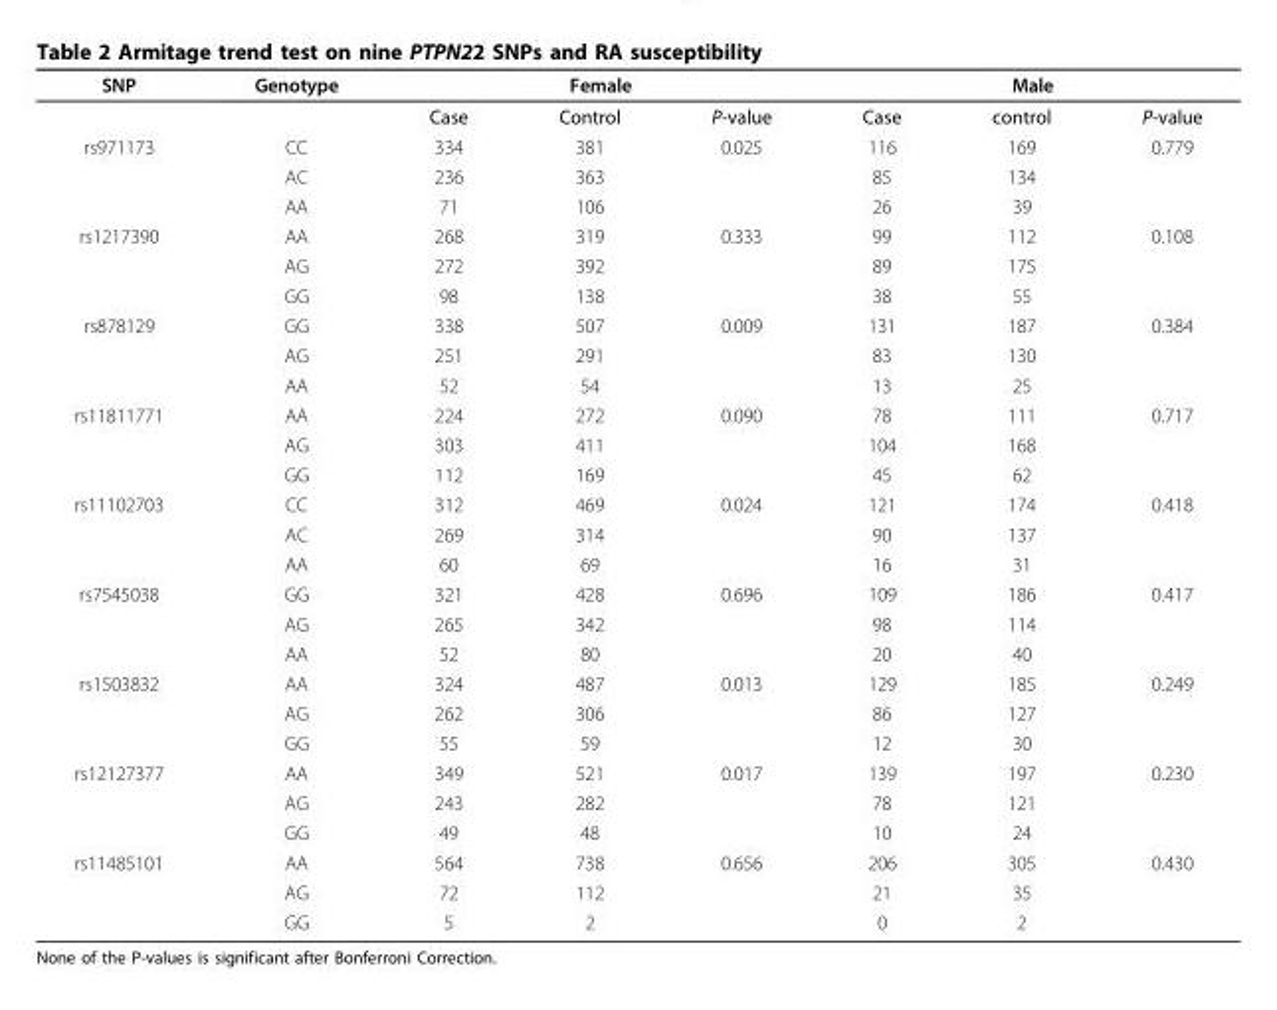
<table><thead><tr><td rowspan="2">SNP</td><td rowspan="2">Genotype</td><td colspan="3">Female</td><td colspan="3">Male</td></tr><tr><td>Case</td><td>Control</td><td>P-value</td><td>Case</td><td>control</td><td>P-value</td></tr></thead><tbody><tr><td rowspan="3">rs971173</td><td>CC</td><td>334</td><td>381</td><td>0.025</td><td>116</td><td>169</td><td>0.779</td></tr><tr><td>AC</td><td>236</td><td>363</td><td></td><td>85</td><td>134</td><td></td></tr><tr><td>AA</td><td>71</td><td>106</td><td></td><td>26</td><td>39</td><td></td></tr><tr><td rowspan="3">rs1217390</td><td>AA</td><td>268</td><td>319</td><td>0.333</td><td>99</td><td>112</td><td>0.108</td></tr><tr><td>AG</td><td>272</td><td>392</td><td></td><td>89</td><td>175</td><td></td></tr><tr><td>GG</td><td>98</td><td>138</td><td></td><td>38</td><td>55</td><td></td></tr><tr><td rowspan="3">rs878129</td><td>GG</td><td>338</td><td>507</td><td>0.009</td><td>131</td><td>187</td><td>0.384</td></tr><tr><td>AG</td><td>251</td><td>291</td><td></td><td>83</td><td>130</td><td></td></tr><tr><td>AA</td><td>52</td><td>54</td><td></td><td>13</td><td>25</td><td></td></tr><tr><td rowspan="3">rs11811771</td><td>AA</td><td>224</td><td>272</td><td>0.090</td><td>78</td><td>111</td><td>0.717</td></tr><tr><td>AG</td><td>303</td><td>411</td><td></td><td>104</td><td>168</td><td></td></tr><tr><td>GG</td><td>112</td><td>169</td><td></td><td>45</td><td>62</td><td></td></tr><tr><td rowspan="3">rs11102703</td><td>CC</td><td>312</td><td>469</td><td>0.024</td><td>121</td><td>174</td><td>0.418</td></tr><tr><td>AC</td><td>269</td><td>314</td><td></td><td>90</td><td>137</td><td></td></tr><tr><td>AA</td><td>60</td><td>69</td><td></td><td>16</td><td>31</td><td></td></tr><tr><td rowspan="3">rs7545038</td><td>GG</td><td>321</td><td>428</td><td>0.696</td><td>109</td><td>186</td><td>0.417</td></tr><tr><td>AG</td><td>265</td><td>342</td><td></td><td>98</td><td>114</td><td></td></tr><tr><td>AA</td><td>52</td><td>80</td><td></td><td>20</td><td>40</td><td></td></tr><tr><td rowspan="3">rs1503832</td><td>AA</td><td>324</td><td>487</td><td>0.013</td><td>129</td><td>185</td><td>0.249</td></tr><tr><td>AG</td><td>262</td><td>306</td><td></td><td>86</td><td>127</td><td></td></tr><tr><td>GG</td><td>55</td><td>59</td><td></td><td>12</td><td>30</td><td></td></tr><tr><td rowspan="3">rs12127377</td><td>AA</td><td>349</td><td>521</td><td>0.017</td><td>139</td><td>197</td><td>0.230</td></tr><tr><td>AG</td><td>243</td><td>282</td><td></td><td>78</td><td>121</td><td></td></tr><tr><td>GG</td><td>49</td><td>48</td><td></td><td>10</td><td>24</td><td></td></tr><tr><td rowspan="3">rs11485101</td><td>AA</td><td>564</td><td>738</td><td>0.656</td><td>206</td><td>305</td><td>0.430</td></tr><tr><td>AG</td><td>72</td><td>112</td><td></td><td>21</td><td>35</td><td></td></tr><tr><td>GG</td><td>5</td><td>2</td><td></td><td>0</td><td>2</td><td></td></tr></tbody></table>